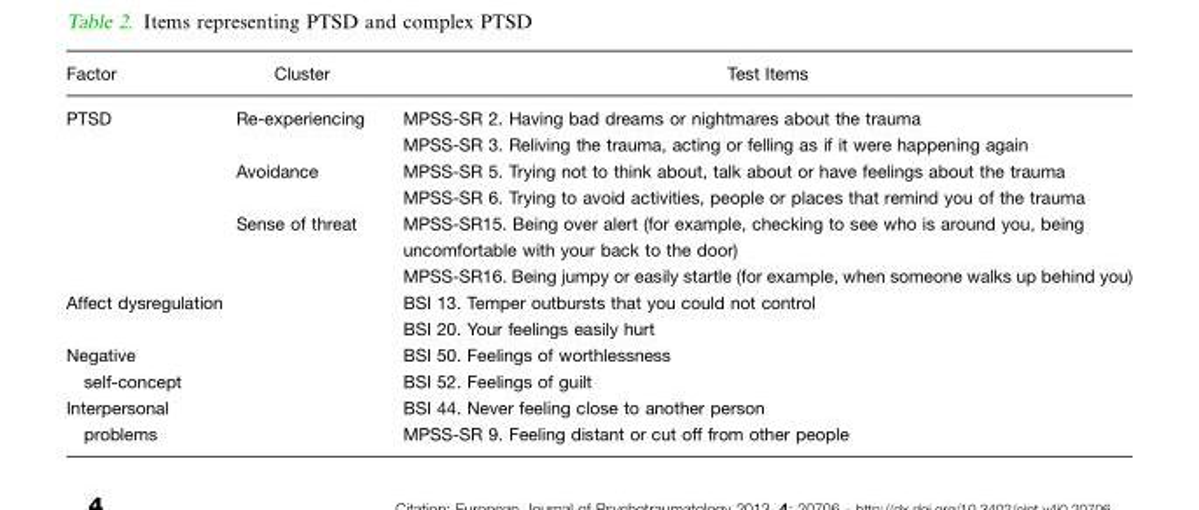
<table><thead><tr><td>Factor</td><td>Cluster</td><td>Test Items</td></tr></thead><tbody><tr><td rowspan="6">PTSD</td><td>Re-experiencing</td><td>MPSS-SR 2. Having bad dreams or nightmares about the trauma</td></tr><tr><td></td><td>MPSS-SR 3. Reliving the trauma, acting or felling as if it were happening again</td></tr><tr><td>Avoidance</td><td>MPSS-SR 5. Trying not to think about, talk about or have feelings about the trauma</td></tr><tr><td></td><td>MPSS-SR 6. Trying to avoid activities, people or places that remind you of the trauma</td></tr><tr><td>Sense of threat</td><td>MPSS-SR15. Being over alert (for example, checking to see who is around you, being uncomfortable with your back to the door)</td></tr><tr><td></td><td>MPSS-SR16. Being jumpy or easily startle (for example, when someone walks up behind you)</td></tr><tr><td rowspan="2">Affect dysregulation</td><td></td><td>BSI 13. Temper outbursts that you could not control</td></tr><tr><td></td><td>BSI 20. Your feelings easily hurt</td></tr><tr><td rowspan="2">Negative self-concept</td><td></td><td>BSI 50. Feelings of worthlessness</td></tr><tr><td></td><td>BSI 52. Feelings of guilt</td></tr><tr><td rowspan="2">Interpersonal problems</td><td></td><td>BSI 44. Never feeling close to another person</td></tr><tr><td></td><td>MPSS-SR 9. Feeling distant or cut off from other people</td></tr></tbody></table>